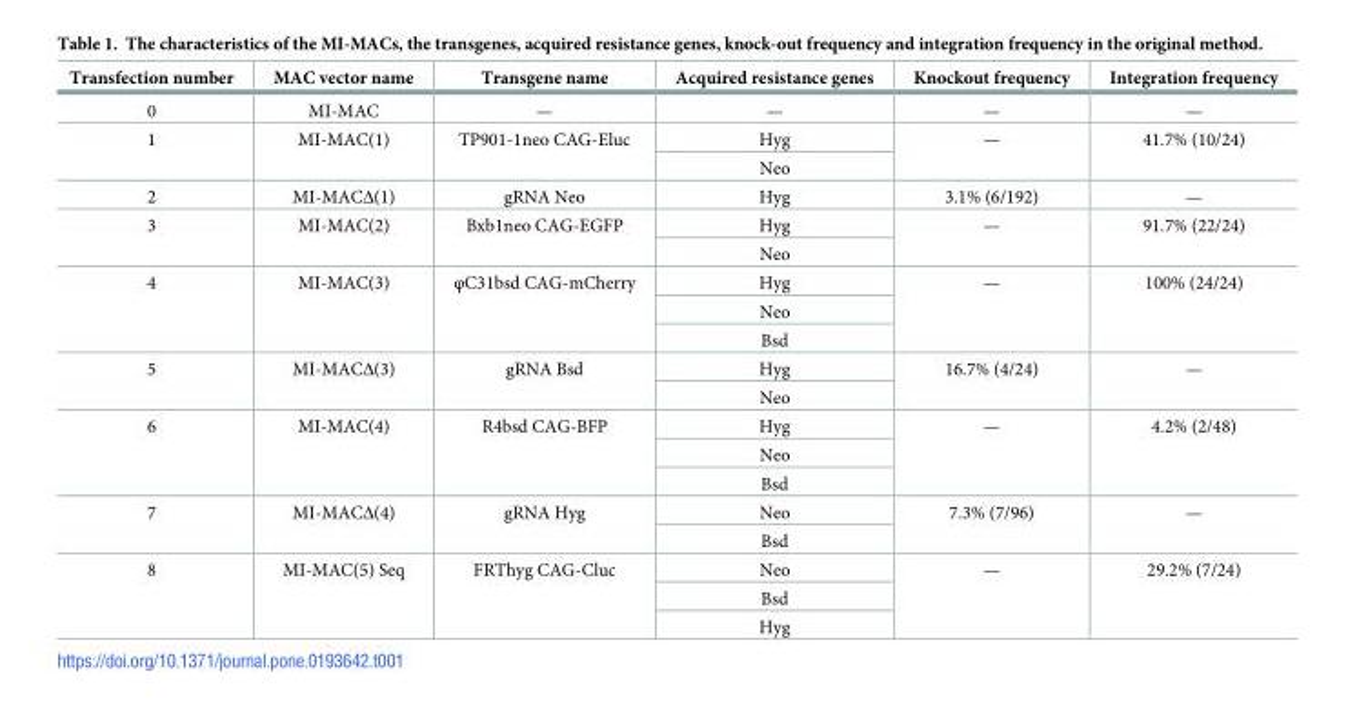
<table><thead><tr><td>Transfection number</td><td>MAC vector name</td><td>Transgene name</td><td>Acquired resistance genes</td><td>Knockout frequency</td><td>Integration frequency</td></tr></thead><tbody><tr><td>0</td><td>MI-MAC</td><td>—</td><td>—</td><td>—</td><td>—</td></tr><tr><td rowspan="2">1</td><td rowspan="2">MI-MAC(1)</td><td rowspan="2">TP901-1neo CAG-Eluc</td><td>Hyg</td><td rowspan="2">—</td><td rowspan="2">41.7% (10/24)</td></tr><tr><td>Neo</td></tr><tr><td>2</td><td>MI-MACΔ(1)</td><td>gRNA Neo</td><td>Hyg</td><td>3.1% (6/192)</td><td>—</td></tr><tr><td rowspan="2">3</td><td rowspan="2">MI-MAC(2)</td><td rowspan="2">Bxb1neo CAG-EGFP</td><td>Hyg</td><td rowspan="2">—</td><td rowspan="2">91.7% (22/24)</td></tr><tr><td>Neo</td></tr><tr><td rowspan="3">4</td><td rowspan="3">MI-MAC(3)</td><td rowspan="3">φC31bsd CAG-mCherry</td><td>Hyg</td><td rowspan="3">—</td><td rowspan="3">100% (24/24)</td></tr><tr><td>Neo</td></tr><tr><td>Bsd</td></tr><tr><td rowspan="2">5</td><td rowspan="2">MI-MACΔ(3)</td><td rowspan="2">gRNA Bsd</td><td>Hyg</td><td rowspan="2">16.7% (4/24)</td><td rowspan="2">—</td></tr><tr><td>Neo</td></tr><tr><td rowspan="3">6</td><td rowspan="3">MI-MAC(4)</td><td rowspan="3">R4bsd CAG-BFP</td><td>Hyg</td><td rowspan="3">—</td><td rowspan="3">4.2% (2/48)</td></tr><tr><td>Neo</td></tr><tr><td>Bsd</td></tr><tr><td rowspan="2">7</td><td rowspan="2">MI-MACΔ(4)</td><td rowspan="2">gRNA Hyg</td><td>Neo</td><td rowspan="2">7.3% (7/96)</td><td rowspan="2">—</td></tr><tr><td>Bsd</td></tr><tr><td rowspan="3">8</td><td rowspan="3">MI-MAC(5) Seq</td><td rowspan="3">FRThyg CAG-Cluc</td><td>Neo</td><td rowspan="3">—</td><td rowspan="3">29.2% (7/24)</td></tr><tr><td>Bsd</td></tr><tr><td>Hyg</td></tr></tbody></table>